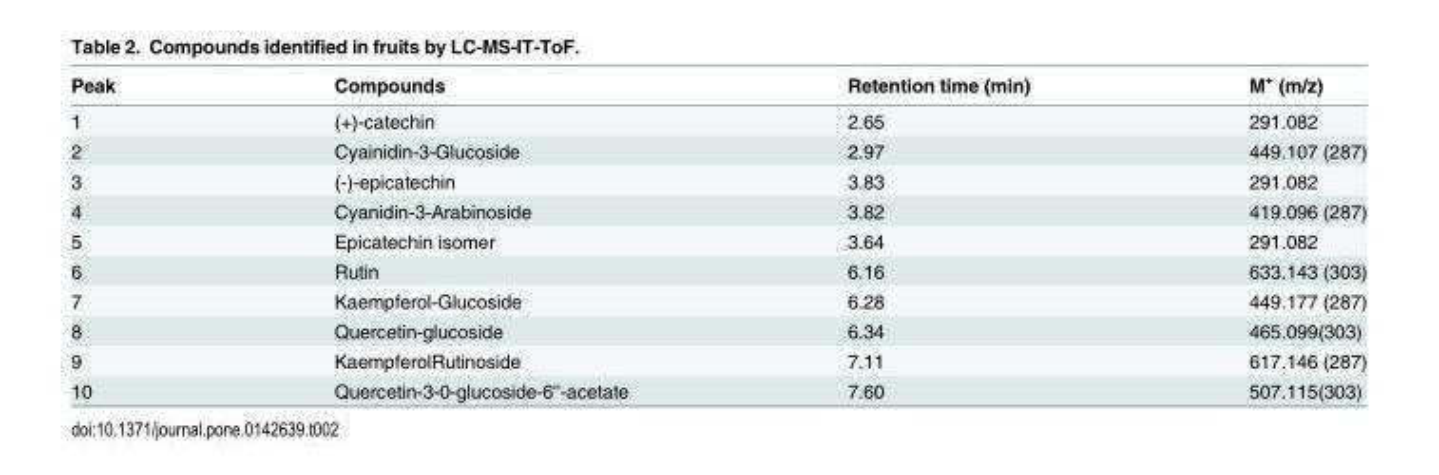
<table><thead><tr><td>Peak</td><td>Compounds</td><td>Retention time (min)</td><td>M<sup>+</sup> (m/z)</td></tr></thead><tbody><tr><td>1</td><td>(+)-catechin</td><td>2.65</td><td>291.082</td></tr><tr><td>2</td><td>Cyainidin-3-Glucoside</td><td>2.97</td><td>449.107 (287)</td></tr><tr><td>3</td><td>(-)-epicatechin</td><td>3.83</td><td>291.082</td></tr><tr><td>4</td><td>Cyanidin-3-Arabinoside</td><td>3.82</td><td>419.096 (287)</td></tr><tr><td>5</td><td>Epicatechin isomer</td><td>3.64</td><td>291.082</td></tr><tr><td>6</td><td>Rutin</td><td>6.16</td><td>633.143 (303)</td></tr><tr><td>7</td><td>Kaempferol-Glucoside</td><td>6.28</td><td>449.177 (287)</td></tr><tr><td>8</td><td>Quercetin-glucoside</td><td>6.34</td><td>465.099(303)</td></tr><tr><td>9</td><td>KaempferolRutinoside</td><td>7.11</td><td>617.146 (287)</td></tr><tr><td>10</td><td>Quercetin-3-0-glucoside-6&#x27;&#x27;-acetate</td><td>7.60</td><td>507.115(303)</td></tr></tbody></table>